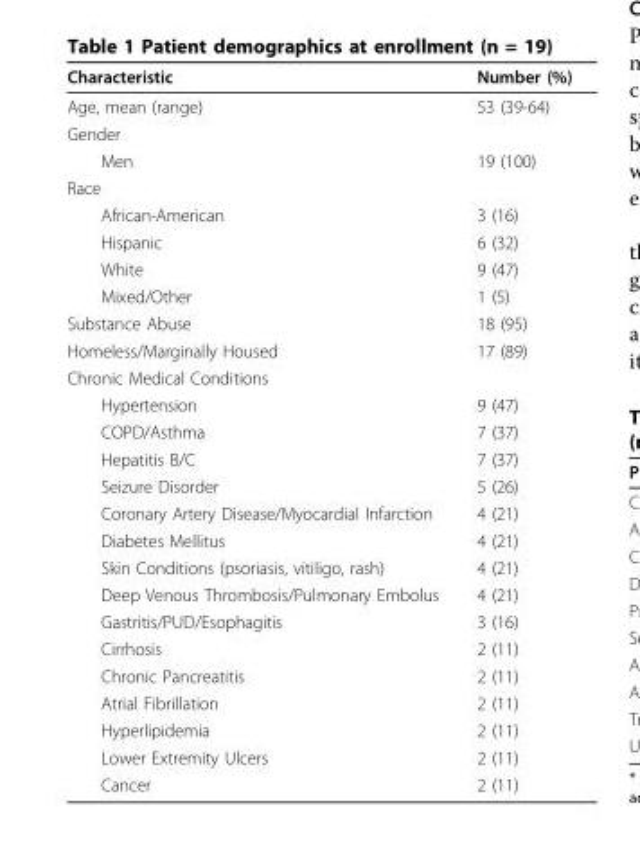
<table><thead><tr><td>Characteristic</td><td>Number (%)</td></tr></thead><tbody><tr><td>Age, mean (range)</td><td>53 (39-64)</td></tr><tr><td colspan="2">Gender</td></tr><tr><td>Men</td><td>19 (100)</td></tr><tr><td colspan="2">Race</td></tr><tr><td>African-American</td><td>3 (16)</td></tr><tr><td>Hispanic</td><td>6 (32)</td></tr><tr><td>White</td><td>9 (47)</td></tr><tr><td>Mixed/Other</td><td>1 (5)</td></tr><tr><td>Substance Abuse</td><td>18 (95)</td></tr><tr><td>Homeless/Marginally Housed</td><td>17 (89)</td></tr><tr><td colspan="2">Chronic Medical Conditions</td></tr><tr><td>Hypertension</td><td>9 (47)</td></tr><tr><td>COPD/Asthma</td><td>7 (37)</td></tr><tr><td>Hepatitis B/C</td><td>7 (37)</td></tr><tr><td>Seizure Disorder</td><td>5 (26)</td></tr><tr><td>Coronary Artery Disease/Myocardial Infarction</td><td>4 (21)</td></tr><tr><td>Diabetes Mellitus</td><td>4 (21)</td></tr><tr><td>Skin Conditions (psoriasis, vitiligo, rash)</td><td>4 (21)</td></tr><tr><td>Deep Venous Thrombosis/Pulmonary Embolus</td><td>4 (21)</td></tr><tr><td>Gastritis/PUD/Esophagitis</td><td>3 (16)</td></tr><tr><td>Cirrhosis</td><td>2 (11)</td></tr><tr><td>Chronic Pancreatitis</td><td>2 (11)</td></tr><tr><td>Atrial Fibrillation</td><td>2 (11)</td></tr><tr><td>Hyperlipidemia</td><td>2 (11)</td></tr><tr><td>Lower Extremity Ulcers</td><td>2 (11)</td></tr><tr><td>Cancer</td><td>2 (11)</td></tr></tbody></table>